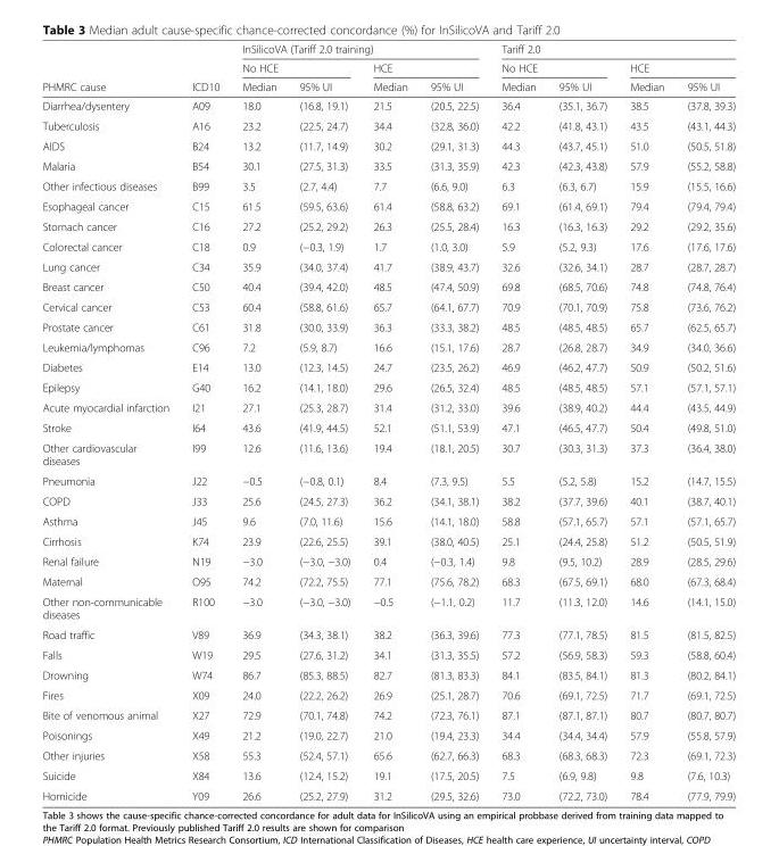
<table><thead><tr><td rowspan="3">PHMRC cause</td><td rowspan="3">ICD10</td><td colspan="4">InSilicoVA (Tariff 2.0 training)</td><td colspan="4">Tariff 2.0</td></tr><tr><td colspan="2">No HCE</td><td colspan="2">HCE</td><td colspan="2">No HCE</td><td colspan="2">HCE</td></tr><tr><td>Median</td><td>95% UI</td><td>Median</td><td>95% UI</td><td>Median</td><td>95% UI</td><td>Median</td><td>95% UI</td></tr></thead><tbody><tr><td>Diarrhea/dysentery</td><td>A09</td><td>18.0</td><td>(16.8, 19.1)</td><td>21.5</td><td>(20.5, 22.5)</td><td>36.4</td><td>(35.1, 36.7)</td><td>38.5</td><td>(37.8, 39.3)</td></tr><tr><td>Tuberculosis</td><td>A16</td><td>23.2</td><td>(22.5, 24.7)</td><td>34.4</td><td>(32.8, 36.0)</td><td>42.2</td><td>(41.8, 43.1)</td><td>43.5</td><td>(43.1, 44.3)</td></tr><tr><td>AIDS</td><td>B24</td><td>13.2</td><td>(11.7, 14.9)</td><td>30.2</td><td>(29.1, 31.3)</td><td>44.3</td><td>(43.7, 45.1)</td><td>51.0</td><td>(50.5, 51.8)</td></tr><tr><td>Malaria</td><td>B54</td><td>30.1</td><td>(27.5, 31.3)</td><td>33.5</td><td>(31.3, 35.9)</td><td>42.3</td><td>(42.3, 43.8)</td><td>57.9</td><td>(55.2, 58.8)</td></tr><tr><td>Other infectious diseases</td><td>B99</td><td>3.5</td><td>(2.7, 4.4)</td><td>7.7</td><td>(6.6, 9.0)</td><td>6.3</td><td>(6.3, 6.7)</td><td>15.9</td><td>(15.5, 16.6)</td></tr><tr><td>Esophageal cancer</td><td>C15</td><td>61.5</td><td>(59.5, 63.6)</td><td>61.4</td><td>(58.8, 63.2)</td><td>69.1</td><td>(61.4, 69.1)</td><td>79.4</td><td>(79.4, 79.4)</td></tr><tr><td>Stomach cancer</td><td>C16</td><td>27.2</td><td>(25.2, 29.2)</td><td>26.3</td><td>(25.5, 28.4)</td><td>16.3</td><td>(16.3, 16.3)</td><td>29.2</td><td>(29.2, 35.6)</td></tr><tr><td>Colorectal cancer</td><td>C18</td><td>0.9</td><td>(−0.3, 1.9)</td><td>1.7</td><td>(1.0, 3.0)</td><td>5.9</td><td>(5.2, 9.3)</td><td>17.6</td><td>(17.6, 17.6)</td></tr><tr><td>Lung cancer</td><td>C34</td><td>35.9</td><td>(34.0, 37.4)</td><td>41.7</td><td>(38.9, 43.7)</td><td>32.6</td><td>(32.6, 34.1)</td><td>28.7</td><td>(28.7, 28.7)</td></tr><tr><td>Breast cancer</td><td>C50</td><td>40.4</td><td>(39.4, 42.0)</td><td>48.5</td><td>(47.4, 50.9)</td><td>69.8</td><td>(68.5, 70.6)</td><td>74.8</td><td>(74.8, 76.4)</td></tr><tr><td>Cervical cancer</td><td>C53</td><td>60.4</td><td>(58.8, 61.6)</td><td>65.7</td><td>(64.1, 67.7)</td><td>70.9</td><td>(70.1, 70.9)</td><td>75.8</td><td>(73.6, 76.2)</td></tr><tr><td>Prostate cancer</td><td>C61</td><td>31.8</td><td>(30.0, 33.9)</td><td>36.3</td><td>(33.3, 38.2)</td><td>48.5</td><td>(48.5, 48.5)</td><td>65.7</td><td>(62.5, 65.7)</td></tr><tr><td>Leukemia/lymphomas</td><td>C96</td><td>7.2</td><td>(5.9, 8.7)</td><td>16.6</td><td>(15.1, 17.6)</td><td>28.7</td><td>(26.8, 28.7)</td><td>34.9</td><td>(34.0, 36.6)</td></tr><tr><td>Diabetes</td><td>E14</td><td>13.0</td><td>(12.3, 14.5)</td><td>24.7</td><td>(23.5, 26.2)</td><td>46.9</td><td>(46.2, 47.7)</td><td>50.9</td><td>(50.2, 51.6)</td></tr><tr><td>Epilepsy</td><td>G40</td><td>16.2</td><td>(14.1, 18.0)</td><td>29.6</td><td>(26.5, 32.4)</td><td>48.5</td><td>(48.5, 48.5)</td><td>57.1</td><td>(57.1, 57.1)</td></tr><tr><td>Acute myocardial infarction</td><td>I21</td><td>27.1</td><td>(25.3, 28.7)</td><td>31.4</td><td>(31.2, 33.0)</td><td>39.6</td><td>(38.9, 40.2)</td><td>44.4</td><td>(43.5, 44.9)</td></tr><tr><td>Stroke</td><td>I64</td><td>43.6</td><td>(41.9, 44.5)</td><td>52.1</td><td>(51.1, 53.9)</td><td>47.1</td><td>(46.5, 47.7)</td><td>50.4</td><td>(49.8, 51.0)</td></tr><tr><td>Other cardiovascular diseases</td><td>I99</td><td>12.6</td><td>(11.6, 13.6)</td><td>19.4</td><td>(18.1, 20.5)</td><td>30.7</td><td>(30.3, 31.3)</td><td>37.3</td><td>(36.4, 38.0)</td></tr><tr><td>Pneumonia</td><td>J22</td><td>−0.5</td><td>(−0.8, 0.1)</td><td>8.4</td><td>(7.3, 9.5)</td><td>5.5</td><td>(5.2, 5.8)</td><td>15.2</td><td>(14.7, 15.5)</td></tr><tr><td>COPD</td><td>J33</td><td>25.6</td><td>(24.5, 27.3)</td><td>36.2</td><td>(34.1, 38.1)</td><td>38.2</td><td>(37.7, 39.6)</td><td>40.1</td><td>(38.7, 40.1)</td></tr><tr><td>Asthma</td><td>J45</td><td>9.6</td><td>(7.0, 11.6)</td><td>15.6</td><td>(14.1, 18.0)</td><td>58.8</td><td>(57.1, 65.7)</td><td>57.1</td><td>(57.1, 65.7)</td></tr><tr><td>Cirrhosis</td><td>K74</td><td>23.9</td><td>(22.6, 25.5)</td><td>39.1</td><td>(38.0, 40.5)</td><td>25.1</td><td>(24.4, 25.8)</td><td>51.2</td><td>(50.5, 51.9)</td></tr><tr><td>Renal failure</td><td>N19</td><td>−3.0</td><td>(−3.0, −3.0)</td><td>0.4</td><td>(−0.3, 1.4)</td><td>9.8</td><td>(9.5, 10.2)</td><td>28.9</td><td>(28.5, 29.6)</td></tr><tr><td>Maternal</td><td>O95</td><td>74.2</td><td>(72.2, 75.5)</td><td>77.1</td><td>(75.6, 78.2)</td><td>68.3</td><td>(67.5, 69.1)</td><td>68.0</td><td>(67.3, 68.4)</td></tr><tr><td>Other non-communicable diseases</td><td>R100</td><td>−3.0</td><td>(−3.0, −3.0)</td><td>−0.5</td><td>(−1.1, 0.2)</td><td>11.7</td><td>(11.3, 12.0)</td><td>14.6</td><td>(14.1, 15.0)</td></tr><tr><td>Road traffic</td><td>V89</td><td>36.9</td><td>(34.3, 38.1)</td><td>38.2</td><td>(36.3, 39.6)</td><td>77.3</td><td>(77.1, 78.5)</td><td>81.5</td><td>(81.5, 82.5)</td></tr><tr><td>Falls</td><td>W19</td><td>29.5</td><td>(27.6, 31.2)</td><td>34.1</td><td>(31.3, 35.5)</td><td>57.2</td><td>(56.9, 58.3)</td><td>59.3</td><td>(58.8, 60.4)</td></tr><tr><td>Drowning</td><td>W74</td><td>86.7</td><td>(85.3, 88.5)</td><td>82.7</td><td>(81.3, 83.3)</td><td>84.1</td><td>(83.5, 84.1)</td><td>81.3</td><td>(80.2, 84.1)</td></tr><tr><td>Fires</td><td>X09</td><td>24.0</td><td>(22.2, 26.2)</td><td>26.9</td><td>(25.1, 28.7)</td><td>70.6</td><td>(69.1, 72.5)</td><td>71.7</td><td>(69.1, 72.5)</td></tr><tr><td>Bite of venomous animal</td><td>X27</td><td>72.9</td><td>(70.1, 74.8)</td><td>74.2</td><td>(72.3, 76.1)</td><td>87.1</td><td>(87.1, 87.1)</td><td>80.7</td><td>(80.7, 80.7)</td></tr><tr><td>Poisonings</td><td>X49</td><td>21.2</td><td>(19.0, 22.7)</td><td>21.0</td><td>(19.4, 23.3)</td><td>34.4</td><td>(34.4, 34.4)</td><td>57.9</td><td>(55.8, 57.9)</td></tr><tr><td>Other injuries</td><td>X58</td><td>55.3</td><td>(52.4, 57.1)</td><td>65.6</td><td>(62.7, 66.3)</td><td>68.3</td><td>(68.3, 68.3)</td><td>72.3</td><td>(69.1, 72.3)</td></tr><tr><td>Suicide</td><td>X84</td><td>13.6</td><td>(12.4, 15.2)</td><td>19.1</td><td>(17.5, 20.5)</td><td>7.5</td><td>(6.9, 9.8)</td><td>9.8</td><td>(7.6, 10.3)</td></tr><tr><td>Homicide</td><td>Y09</td><td>26.6</td><td>(25.2, 27.9)</td><td>31.2</td><td>(29.5, 32.6)</td><td>73.0</td><td>(72.2, 73.0)</td><td>78.4</td><td>(77.9, 79.9)</td></tr></tbody></table>